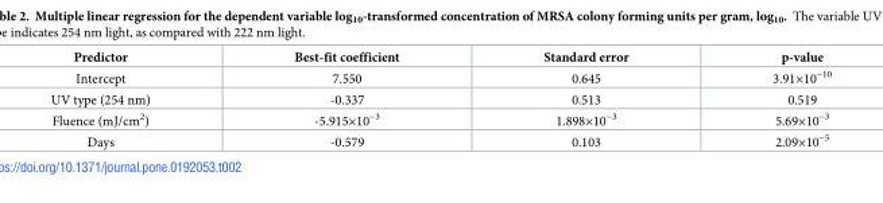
<table><thead><tr><td>Predictor</td><td>Best-fit coefficient</td><td>Standard error</td><td>p-value</td></tr></thead><tbody><tr><td>Intercept</td><td>7.550</td><td>0.645</td><td>3.91×10<sup>−10</sup></td></tr><tr><td>UV type (254 nm)</td><td>-0.337</td><td>0.513</td><td>0.519</td></tr><tr><td>Fluence (mJ/cm<sup>2</sup>)</td><td>-5.915×10<sup>−3</sup></td><td>1.898×10<sup>−3</sup></td><td>5.69×10<sup>−3</sup></td></tr><tr><td>Days</td><td>-0.579</td><td>0.103</td><td>2.09×10<sup>−5</sup></td></tr></tbody></table>